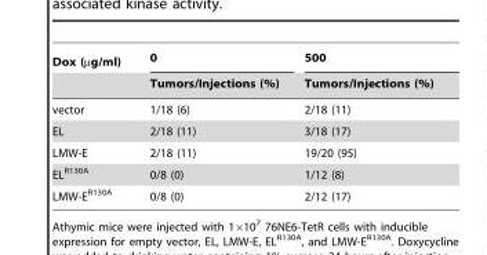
<table><thead><tr><td rowspan="2">Dox (µg/ml)</td><td rowspan="2">0 Tumors/Injections (%)</td><td rowspan="2">500 Tumors/Injections (%)</td></tr><tr></tr></thead><tbody><tr><td>vector</td><td>1/18 (6)</td><td>2/18 (11)</td></tr><tr><td>EL</td><td>2/18 (11)</td><td>3/18 (17)</td></tr><tr><td>LMW-E</td><td>2/18 (11)</td><td>19/20 (95)</td></tr><tr><td>EL<sup>R130A</sup></td><td>0/8 (0)</td><td>1/12 (8)</td></tr><tr><td>LMW-E<sup>R130A</sup></td><td>0/8 (0)</td><td>2/12 (17)</td></tr></tbody></table>